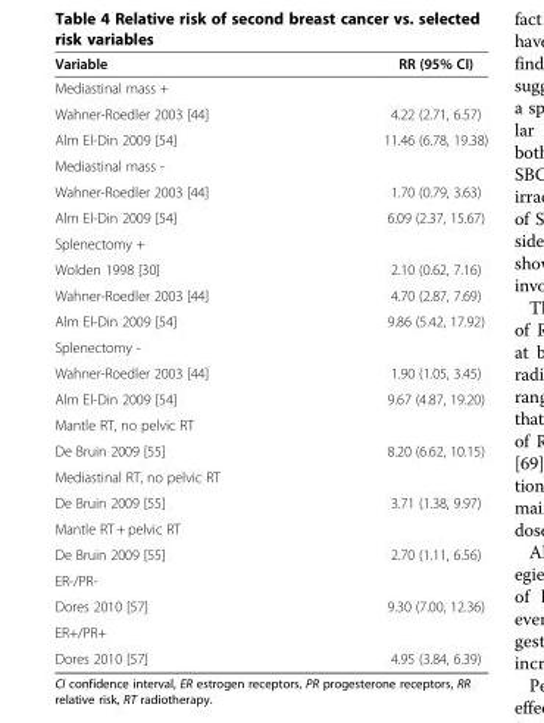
<table><thead><tr><td>Variable</td><td>RR (95% CI)</td></tr></thead><tbody><tr><td colspan="2">Mediastinal mass +</td></tr><tr><td>Wahner-Roedler 2003 [44]</td><td>4.22 (2.71, 6.57)</td></tr><tr><td>Alm El-Din 2009 [54]</td><td>11.46 (6.78, 19.38)</td></tr><tr><td colspan="2">Mediastinal mass -</td></tr><tr><td>Wahner-Roedler 2003 [44]</td><td>1.70 (0.79, 3.63)</td></tr><tr><td>Alm El-Din 2009 [54]</td><td>6.09 (2.37, 15.67)</td></tr><tr><td colspan="2">Splenectomy +</td></tr><tr><td>Wolden 1998 [30]</td><td>2.10 (0.62, 7.16)</td></tr><tr><td>Wahner-Roedler 2003 [44]</td><td>4.70 (2.87, 7.69)</td></tr><tr><td>Alm El-Din 2009 [54]</td><td>9.86 (5.42, 17.92)</td></tr><tr><td colspan="2">Splenectomy -</td></tr><tr><td>Wahner-Roedler 2003 [44]</td><td>1.90 (1.05, 3.45)</td></tr><tr><td>Alm El-Din 2009 [54]</td><td>9.67 (4.87, 19.20)</td></tr><tr><td colspan="2">Mantle RT, no pelvic RT</td></tr><tr><td>De Bruin 2009 [55]</td><td>8.20 (6.62, 10.15)</td></tr><tr><td colspan="2">Mediastinal RT, no pelvic RT</td></tr><tr><td>De Bruin 2009 [55]</td><td>3.71 (1.38, 9.97)</td></tr><tr><td colspan="2">Mantle RT + pelvic RT</td></tr><tr><td>De Bruin 2009 [55]</td><td>2.70 (1.11, 6.56)</td></tr><tr><td colspan="2">ER-/PR-</td></tr><tr><td>Dores 2010 [57]</td><td>9.30 (7.00, 12.36)</td></tr><tr><td colspan="2">ER+/PR+</td></tr><tr><td>Dores 2010 [57]</td><td>4.95 (3.84, 6.39)</td></tr></tbody></table>